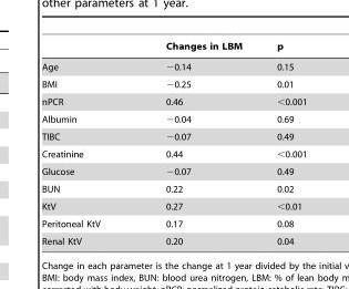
<table><thead><tr><td></td><td>Changes in LBM</td><td>p</td></tr></thead><tbody><tr><td>Age</td><td>−0.14</td><td>0.15</td></tr><tr><td>BMI</td><td>−0.25</td><td>0.01</td></tr><tr><td>nPCR</td><td>0.46</td><td>&lt;0.001</td></tr><tr><td>Albumin</td><td>−0.04</td><td>0.69</td></tr><tr><td>TIBC</td><td>−0.07</td><td>0.49</td></tr><tr><td>Creatinine</td><td>0.44</td><td>&lt;0.001</td></tr><tr><td>Glucose</td><td>−0.07</td><td>0.49</td></tr><tr><td>BUN</td><td>0.22</td><td>0.02</td></tr><tr><td>KtV</td><td>0.27</td><td>&lt;0.01</td></tr><tr><td>Peritoneal KtV</td><td>0.17</td><td>0.08</td></tr><tr><td>Renal KtV</td><td>0.20</td><td>0.04</td></tr></tbody></table>